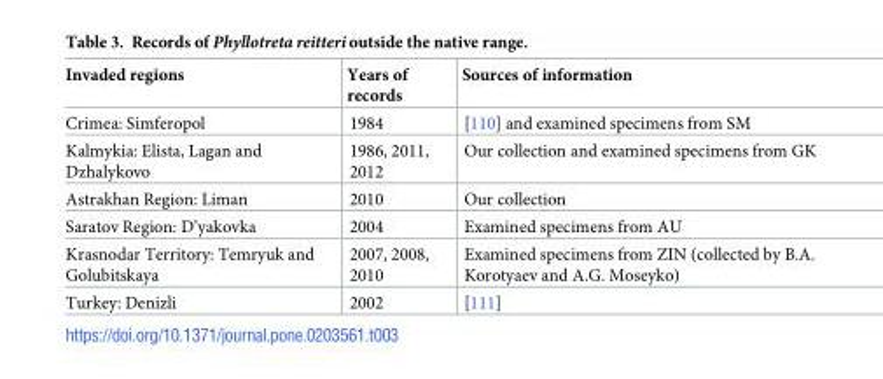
<table><thead><tr><td>Invaded regions</td><td>Years of records</td><td>Sources of information</td></tr></thead><tbody><tr><td>Crimea: Simferopol</td><td>1984</td><td>[110] and examined specimens from SM</td></tr><tr><td>Kalmykia: Elista, Lagan and Dzhalykovo</td><td>1986, 2011, 2012</td><td>Our collection and examined specimens from GK</td></tr><tr><td>Astrakhan Region: Liman</td><td>2010</td><td>Our collection</td></tr><tr><td>Saratov Region: D’yakovka</td><td>2004</td><td>Examined specimens from AU</td></tr><tr><td>Krasnodar Territory: Temryuk and Golubitskaya</td><td>2007, 2008, 2010</td><td>Examined specimens from ZIN (collected by B.A. Korotyaev and A.G. Moseyko)</td></tr><tr><td>Turkey: Denizli</td><td>2002</td><td>[111]</td></tr></tbody></table>